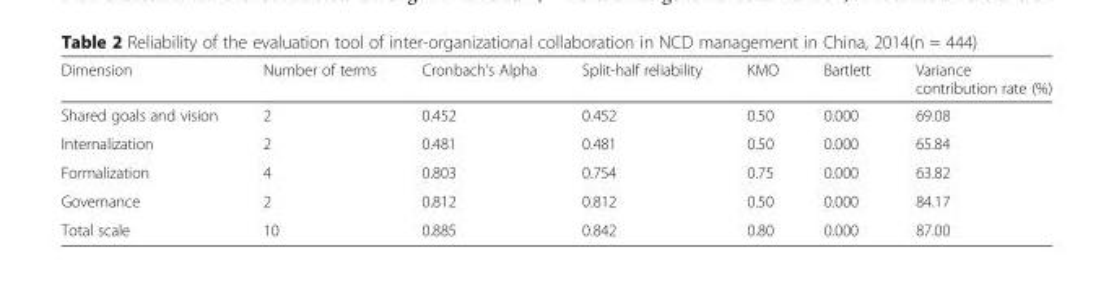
<table><thead><tr><td>Dimension</td><td>Number of terms</td><td>Cronbach’s Alpha</td><td>Split-half reliability</td><td>KMO</td><td>Bartlett</td><td>Variance contribution rate (%)</td></tr></thead><tbody><tr><td>Shared goals and vision</td><td>2</td><td>0.452</td><td>0.452</td><td>0.50</td><td>0.000</td><td>69.08</td></tr><tr><td>Internalization</td><td>2</td><td>0.481</td><td>0.481</td><td>0.50</td><td>0.000</td><td>65.84</td></tr><tr><td>Formalization</td><td>4</td><td>0.803</td><td>0.754</td><td>0.75</td><td>0.000</td><td>63.82</td></tr><tr><td>Governance</td><td>2</td><td>0.812</td><td>0.812</td><td>0.50</td><td>0.000</td><td>84.17</td></tr><tr><td>Total scale</td><td>10</td><td>0.885</td><td>0.842</td><td>0.80</td><td>0.000</td><td>87.00</td></tr></tbody></table>